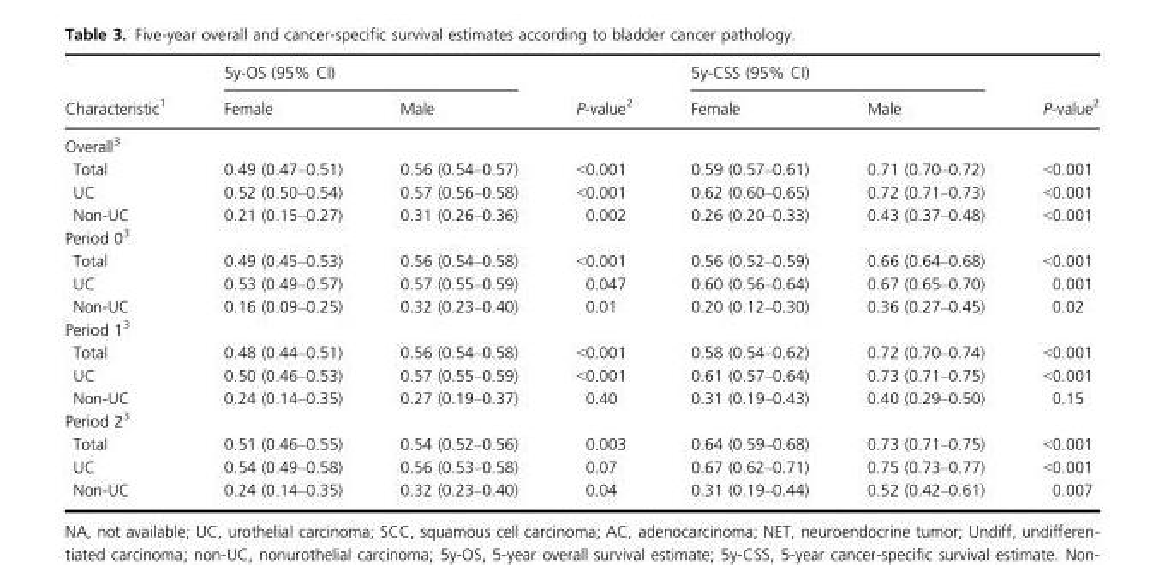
<table><thead><tr><td rowspan="2">Characteristic<sup>1</sup></td><td colspan="2">5y-OS (95% CI)</td><td rowspan="2">P-value<sup>2</sup></td><td colspan="2">5y-CSS (95% CI)</td><td rowspan="2">P-value<sup>2</sup></td></tr><tr><td>Female</td><td>Male</td><td>Female</td><td>Male</td></tr></thead><tbody><tr><td colspan="7">Overall<sup>3</sup></td></tr><tr><td>Total</td><td>0.49 (0.47–0.51)</td><td>0.56 (0.54–0.57)</td><td>&lt;0.001</td><td>0.59 (0.57–0.61)</td><td>0.71 (0.70–0.72)</td><td>&lt;0.001</td></tr><tr><td>UC</td><td>0.52 (0.50–0.54)</td><td>0.57 (0.56–0.58)</td><td>&lt;0.001</td><td>0.62 (0.60–0.65)</td><td>0.72 (0.71–0.73)</td><td>&lt;0.001</td></tr><tr><td>Non-UC</td><td>0.21 (0.15–0.27)</td><td>0.31 (0.26–0.36)</td><td>0.002</td><td>0.26 (0.20–0.33)</td><td>0.43 (0.37–0.48)</td><td>&lt;0.001</td></tr><tr><td colspan="7">Period 0<sup>3</sup></td></tr><tr><td>Total</td><td>0.49 (0.45–0.53)</td><td>0.56 (0.54–0.58)</td><td>&lt;0.001</td><td>0.56 (0.52–0.59)</td><td>0.66 (0.64–0.68)</td><td>&lt;0.001</td></tr><tr><td>UC</td><td>0.53 (0.49–0.57)</td><td>0.57 (0.55–0.59)</td><td>0.047</td><td>0.60 (0.56–0.64)</td><td>0.67 (0.65–0.70)</td><td>0.001</td></tr><tr><td>Non-UC</td><td>0.16 (0.09–0.25)</td><td>0.32 (0.23–0.40)</td><td>0.01</td><td>0.20 (0.12–0.30)</td><td>0.36 (0.27–0.45)</td><td>0.02</td></tr><tr><td colspan="7">Period 1<sup>3</sup></td></tr><tr><td>Total</td><td>0.48 (0.44–0.51)</td><td>0.56 (0.54–0.58)</td><td>&lt;0.001</td><td>0.58 (0.54–0.62)</td><td>0.72 (0.70–0.74)</td><td>&lt;0.001</td></tr><tr><td>UC</td><td>0.50 (0.46–0.53)</td><td>0.57 (0.55–0.59)</td><td>&lt;0.001</td><td>0.61 (0.57–0.64)</td><td>0.73 (0.71–0.75)</td><td>&lt;0.001</td></tr><tr><td>Non-UC</td><td>0.24 (0.14–0.35)</td><td>0.27 (0.19–0.37)</td><td>0.40</td><td>0.31 (0.19–0.43)</td><td>0.40 (0.29–0.50)</td><td>0.15</td></tr><tr><td colspan="7">Period 2<sup>3</sup></td></tr><tr><td>Total</td><td>0.51 (0.46–0.55)</td><td>0.54 (0.52–0.56)</td><td>0.003</td><td>0.64 (0.59–0.68)</td><td>0.73 (0.71–0.75)</td><td>&lt;0.001</td></tr><tr><td>UC</td><td>0.54 (0.49–0.58)</td><td>0.56 (0.53–0.58)</td><td>0.07</td><td>0.67 (0.62–0.71)</td><td>0.75 (0.73–0.77)</td><td>&lt;0.001</td></tr><tr><td>Non-UC</td><td>0.24 (0.14–0.35)</td><td>0.32 (0.23–0.40)</td><td>0.04</td><td>0.31 (0.19–0.44)</td><td>0.52 (0.42–0.61)</td><td>0.007</td></tr></tbody></table>